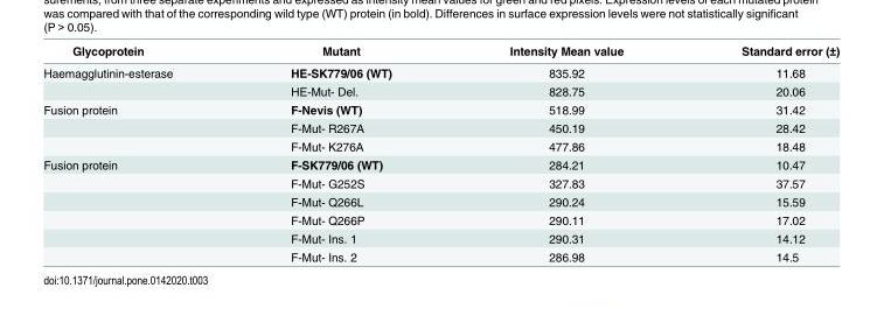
<table><thead><tr><td>Glycoprotein</td><td>Mutant</td><td>Intensity Mean value</td><td>Standard error (±)</td></tr></thead><tbody><tr><td rowspan="2">Haemagglutinin-esterase</td><td>HE-SK779/06 (WT)</td><td>835.92</td><td>11.68</td></tr><tr><td>HE-Mut- Del.</td><td>828.75</td><td>20.06</td></tr><tr><td rowspan="3">Fusion protein</td><td>F-Nevis (WT)</td><td>518.99</td><td>31.42</td></tr><tr><td>F-Mut- R267A</td><td>450.19</td><td>28.42</td></tr><tr><td>F-Mut- K276A</td><td>477.86</td><td>18.48</td></tr><tr><td rowspan="6">Fusion protein</td><td>F-SK779/06 (WT)</td><td>284.21</td><td>10.47</td></tr><tr><td>F-Mut- G252S</td><td>327.83</td><td>37.57</td></tr><tr><td>F-Mut- Q266L</td><td>290.24</td><td>15.59</td></tr><tr><td>F-Mut- Q266P</td><td>290.11</td><td>17.02</td></tr><tr><td>F-Mut- Ins. 1</td><td>290.31</td><td>14.12</td></tr><tr><td>F-Mut- Ins. 2</td><td>286.98</td><td>14.5</td></tr></tbody></table>